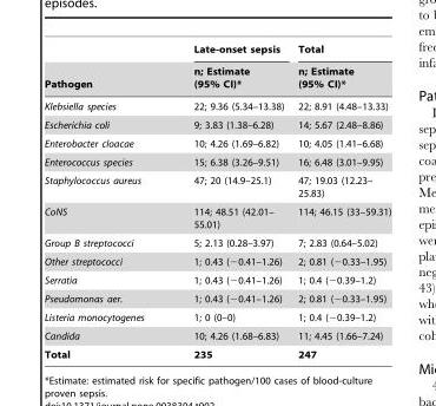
<table><thead><tr><td rowspan="2">Pathogen</td><td rowspan="2">Late-onset sepsis n; Estimate (95% CI)*</td><td rowspan="2">Total n; Estimate (95% CI)*</td></tr><tr></tr></thead><tbody><tr><td>Klebsiella species</td><td>22; 9.36 (5.34–13.38)</td><td>22; 8.91 (4.48–13.33)</td></tr><tr><td>Escherichia coli</td><td>9; 3.83 (1.38–6.28)</td><td>14; 5.67 (2.48–8.86)</td></tr><tr><td>Enterobacter cloacae</td><td>10; 4.26 (1.69–6.82)</td><td>10; 4.05 (1.41–6.68)</td></tr><tr><td>Enterococcus species</td><td>15; 6.38 (3.26–9.51)</td><td>16; 6.48 (3.01–9.95)</td></tr><tr><td>Staphylococcus aureus</td><td>47; 20 (14.9–25.1)</td><td>47; 19.03 (12.23– 25.83)</td></tr><tr><td>CoNS</td><td>114; 48.51 (42.01– 55.01)</td><td>114; 46.15 (33–59.31)</td></tr><tr><td>Group B streptococci</td><td>5; 2.13 (0.28–3.97)</td><td>7; 2.83 (0.64–5.02)</td></tr><tr><td>Other streptococci</td><td>1; 0.43 (−0.41–1.26)</td><td>2; 0.81 (−0.33–1.95)</td></tr><tr><td>Serratia</td><td>1; 0.43 (−0.41–1.26)</td><td>1; 0.4 (−0.39–1.2)</td></tr><tr><td>Pseudomonas aer.</td><td>1; 0.43 (−0.41–1.26)</td><td>2; 0.81 (−0.33–1.95)</td></tr><tr><td>Listeria monocytogenes</td><td>1; 0 (0–0)</td><td>1; 0.4 (−0.39–1.2)</td></tr><tr><td>Candida</td><td>10; 4.26 (1.68–6.83)</td><td>11; 4.45 (1.66–7.24)</td></tr><tr><td>Total</td><td>235</td><td>247</td></tr></tbody></table>